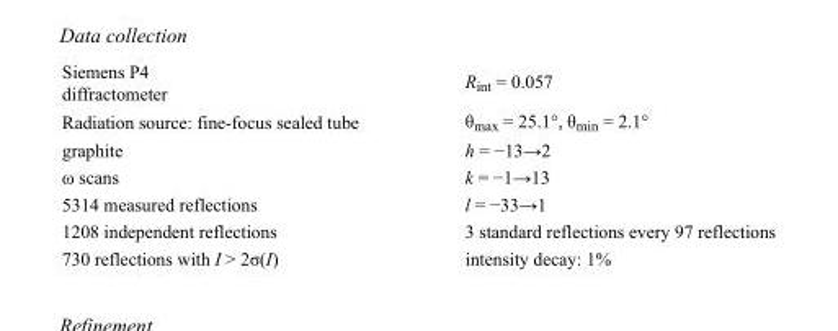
<table><tbody><tr><td>Siemens P4 diffractometer</td><td>R<sub>int</sub> = 0.057</td></tr><tr><td>Radiation source: fine-focus sealed tube</td><td>θ<sub>max</sub> = 25.1°, θ<sub>min</sub> = 2.1°</td></tr><tr><td>graphite</td><td>h = −13→2</td></tr><tr><td>ω scans</td><td>k = −1→13</td></tr><tr><td>5314 measured reflections</td><td>l = −33→1</td></tr><tr><td>1208 independent reflections</td><td>3 standard reflections every 97 reflections</td></tr><tr><td>730 reflections with I &gt; 2σ(I)</td><td>intensity decay: 1%</td></tr></tbody></table>